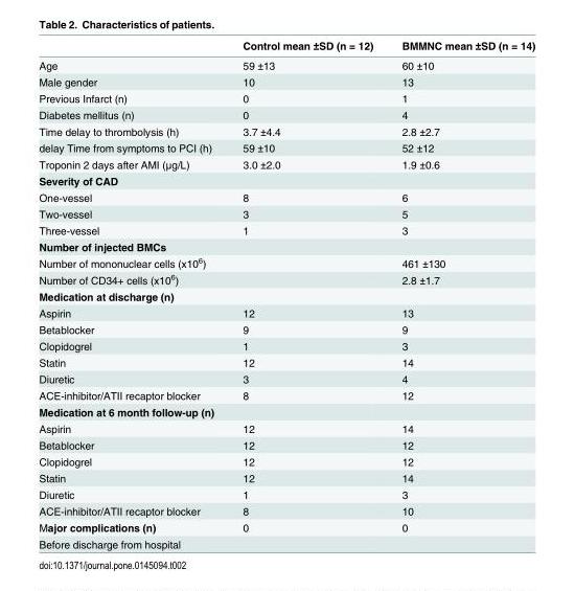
<table><thead><tr><td></td><td>Control mean ±SD (n = 12)</td><td>BMMNC mean ±SD (n = 14)</td></tr></thead><tbody><tr><td>Age</td><td>59 ±13</td><td>60 ±10</td></tr><tr><td>Male gender</td><td>10</td><td>13</td></tr><tr><td>Previous Infarct (n)</td><td>0</td><td>1</td></tr><tr><td>Diabetes mellitus (n)</td><td>0</td><td>4</td></tr><tr><td>Time delay to thrombolysis (h)</td><td>3.7 ±4.4</td><td>2.8 ±2.7</td></tr><tr><td>delay Time from symptoms to PCI (h)</td><td>59 ±10</td><td>52 ±12</td></tr><tr><td>Troponin 2 days after AMI (μg/L)</td><td>3.0 ±2.0</td><td>1.9 ±0.6</td></tr><tr><td colspan="3">Severity of CAD</td></tr><tr><td>One-vessel</td><td>8</td><td>6</td></tr><tr><td>Two-vessel</td><td>3</td><td>5</td></tr><tr><td>Three-vessel</td><td>1</td><td>3</td></tr><tr><td colspan="3">Number of injected BMCs</td></tr><tr><td>Number of mononuclear cells (x10<sup>6</sup>)</td><td></td><td>461 ±130</td></tr><tr><td>Number of CD34+ cells (x10<sup>6</sup>)</td><td></td><td>2.8 ±1.7</td></tr><tr><td colspan="3">Medication at discharge (n)</td></tr><tr><td>Aspirin</td><td>12</td><td>13</td></tr><tr><td>Betablocker</td><td>9</td><td>9</td></tr><tr><td>Clopidogrel</td><td>1</td><td>3</td></tr><tr><td>Statin</td><td>12</td><td>14</td></tr><tr><td>Diuretic</td><td>3</td><td>4</td></tr><tr><td>ACE-inhibitor/ATII recaptor blocker</td><td>8</td><td>12</td></tr><tr><td colspan="3">Medication at 6 month follow-up (n)</td></tr><tr><td>Aspirin</td><td>12</td><td>14</td></tr><tr><td>Betablocker</td><td>12</td><td>12</td></tr><tr><td>Clopidogrel</td><td>12</td><td>12</td></tr><tr><td>Statin</td><td>12</td><td>14</td></tr><tr><td>Diuretic</td><td>1</td><td>3</td></tr><tr><td>ACE-inhibitor/ATII recaptor blocker</td><td>8</td><td>10</td></tr><tr><td>Major complications (n)</td><td>0</td><td>0</td></tr><tr><td>Before discharge from hospital</td><td></td><td></td></tr></tbody></table>